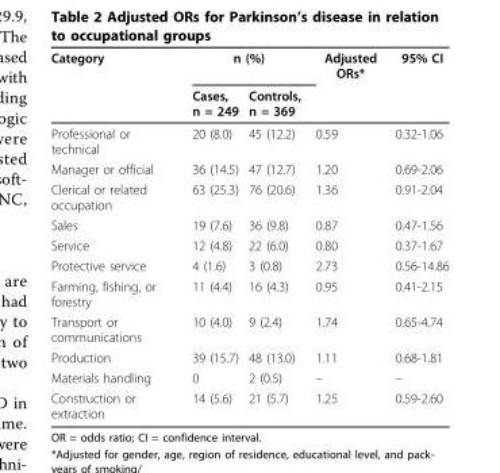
<table><thead><tr><td rowspan="2">Category</td><td colspan="2">n (%)</td><td rowspan="2">Adjusted ORs*</td><td rowspan="2">95% CI</td></tr><tr><td>Cases, n = 249</td><td>Controls, n = 369</td></tr></thead><tbody><tr><td>Professional or technical</td><td>20 (8.0)</td><td>45 (12.2)</td><td>0.59</td><td>0.32-1.06</td></tr><tr><td>Manager or official</td><td>36 (14.5)</td><td>47 (12.7)</td><td>1.20</td><td>0.69-2.06</td></tr><tr><td>Clerical or related occupation</td><td>63 (25.3)</td><td>76 (20.6)</td><td>1.36</td><td>0.91-2.04</td></tr><tr><td>Sales</td><td>19 (7.6)</td><td>36 (9.8)</td><td>0.87</td><td>0.47-1.56</td></tr><tr><td>Service</td><td>12 (4.8)</td><td>22 (6.0)</td><td>0.80</td><td>0.37-1.67</td></tr><tr><td>Protective service</td><td>4 (1.6)</td><td>3 (0.8)</td><td>2.73</td><td>0.56-14.86</td></tr><tr><td>Farming, fishing, or forestry</td><td>11 (4.4)</td><td>16 (4.3)</td><td>0.95</td><td>0.41-2.15</td></tr><tr><td>Transport or communications</td><td>10 (4.0)</td><td>9 (2.4)</td><td>1.74</td><td>0.65-4.74</td></tr><tr><td>Production</td><td>39 (15.7)</td><td>48 (13.0)</td><td>1.11</td><td>0.68-1.81</td></tr><tr><td>Materials handling</td><td>0</td><td>2 (0.5)</td><td>–</td><td>–</td></tr><tr><td>Construction or extraction</td><td>14 (5.6)</td><td>21 (5.7)</td><td>1.25</td><td>0.59-2.60</td></tr></tbody></table>